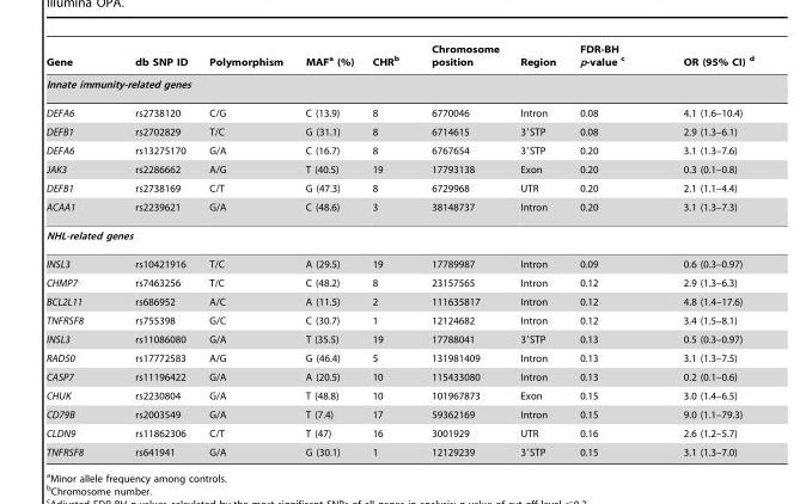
<table><thead><tr><td>Gene</td><td>db SNP ID</td><td>Polymorphism</td><td>MAF<sup>a</sup> (%)</td><td>CHR<sup>b</sup></td><td>Chromosome position</td><td>Region</td><td>FDR-BH p-value c</td><td>OR (95% CI) d</td></tr></thead><tbody><tr><td colspan="9">Innate immunity-related genes</td></tr><tr><td>DEFA6</td><td>rs2738120</td><td>C/G</td><td>C (13.9)</td><td>8</td><td>6770046</td><td>Intron</td><td>0.08</td><td>4.1 (1.6–10.4)</td></tr><tr><td>DEFB1</td><td>rs2702829</td><td>T/C</td><td>G (31.1)</td><td>8</td><td>6714615</td><td>3′STP</td><td>0.08</td><td>2.9 (1.3–6.1)</td></tr><tr><td>DEFA6</td><td>rs13275170</td><td>G/A</td><td>C (16.7)</td><td>8</td><td>6767654</td><td>3′STP</td><td>0.20</td><td>3.1 (1.3–7.6)</td></tr><tr><td>JAK3</td><td>rs2286662</td><td>A/G</td><td>T (40.5)</td><td>19</td><td>17793138</td><td>Exon</td><td>0.20</td><td>0.3 (0.1–0.8)</td></tr><tr><td>DEFB1</td><td>rs2738169</td><td>C/T</td><td>G (47.3)</td><td>8</td><td>6729968</td><td>UTR</td><td>0.20</td><td>2.1 (1.1–4.4)</td></tr><tr><td>ACAA1</td><td>rs2239621</td><td>G/A</td><td>C (48.6)</td><td>3</td><td>38148737</td><td>Intron</td><td>0.20</td><td>3.1 (1.3–7.3)</td></tr><tr><td colspan="9">NHL-related genes</td></tr><tr><td>INSL3</td><td>rs10421916</td><td>T/C</td><td>A (29.5)</td><td>19</td><td>17789987</td><td>Intron</td><td>0.09</td><td>0.6 (0.3–0.97)</td></tr><tr><td>CHMP7</td><td>rs7463256</td><td>T/C</td><td>C (48.2)</td><td>8</td><td>23157565</td><td>Intron</td><td>0.12</td><td>2.9 (1.3–6.3)</td></tr><tr><td>BCL2L11</td><td>rs686952</td><td>A/C</td><td>A (11.5)</td><td>2</td><td>111635817</td><td>Intron</td><td>0.12</td><td>4.8 (1.4–17.6)</td></tr><tr><td>TNFRSF8</td><td>rs755398</td><td>G/C</td><td>C (30.7)</td><td>1</td><td>12124682</td><td>Intron</td><td>0.12</td><td>3.4 (1.5–8.1)</td></tr><tr><td>INSL3</td><td>rs11086080</td><td>G/A</td><td>T (35.5)</td><td>19</td><td>17788041</td><td>3′STP</td><td>0.13</td><td>0.5 (0.3–0.97)</td></tr><tr><td>RAD50</td><td>rs17772583</td><td>A/G</td><td>G (46.4)</td><td>5</td><td>131981409</td><td>Intron</td><td>0.13</td><td>3.1 (1.3–7.5)</td></tr><tr><td>CASP7</td><td>rs11196422</td><td>G/A</td><td>A (20.5)</td><td>10</td><td>115433080</td><td>Intron</td><td>0.13</td><td>0.2 (0.1–0.6)</td></tr><tr><td>CHUK</td><td>rs2230804</td><td>G/A</td><td>T (48.8)</td><td>10</td><td>101967873</td><td>Exon</td><td>0.15</td><td>3.0 (1.4–6.5)</td></tr><tr><td>CD79B</td><td>rs2003549</td><td>G/A</td><td>T (7.4)</td><td>17</td><td>59362169</td><td>Intron</td><td>0.15</td><td>9.0 (1.1–79.3)</td></tr><tr><td>CLDN9</td><td>rs11862306</td><td>C/T</td><td>T (47)</td><td>16</td><td>3001929</td><td>UTR</td><td>0.16</td><td>2.6 (1.2–5.7)</td></tr><tr><td>TNFRSF8</td><td>rs641941</td><td>G/A</td><td>G (30.1)</td><td>1</td><td>12129239</td><td>3′STP</td><td>0.15</td><td>3.1 (1.3–7.0)</td></tr></tbody></table>